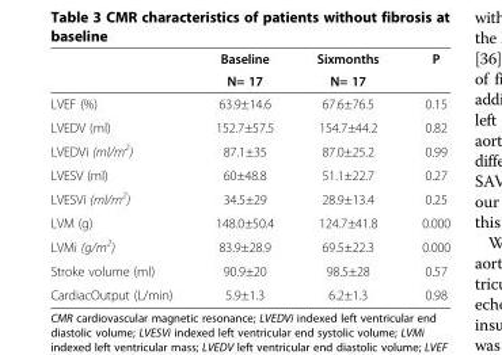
<table><thead><tr><td rowspan="2"></td><td rowspan="2">Baseline N= 17</td><td rowspan="2">Sixmonths N= 17</td><td rowspan="2">P</td></tr><tr></tr></thead><tbody><tr><td>LVEF (%)</td><td>63.9±14.6</td><td>67.6±76.5</td><td>0.15</td></tr><tr><td>LVEDV (ml)</td><td>152.7±57.5</td><td>154.7±44.2</td><td>0.82</td></tr><tr><td>LVEDVi (ml/m<sup>2</sup>)</td><td>87.1±35</td><td>87.0±25.2</td><td>0.99</td></tr><tr><td>LVESV (ml)</td><td>60±48.8</td><td>51.1±22.7</td><td>0.27</td></tr><tr><td>LVESVi (ml/m<sup>2</sup>)</td><td>34.5±29</td><td>28.9±13.4</td><td>0.25</td></tr><tr><td>LVM (g)</td><td>148.0±50.4</td><td>124.7±41.8</td><td>0.000</td></tr><tr><td>LVMi (g/m<sup>2</sup>)</td><td>83.9±28.9</td><td>69.5±22.3</td><td>0.000</td></tr><tr><td>Stroke volume (ml)</td><td>90.9±20</td><td>98.5±28</td><td>0.57</td></tr><tr><td>CardiacOutput (L/min)</td><td>5.9±1.3</td><td>6.2±1.3</td><td>0.98</td></tr></tbody></table>